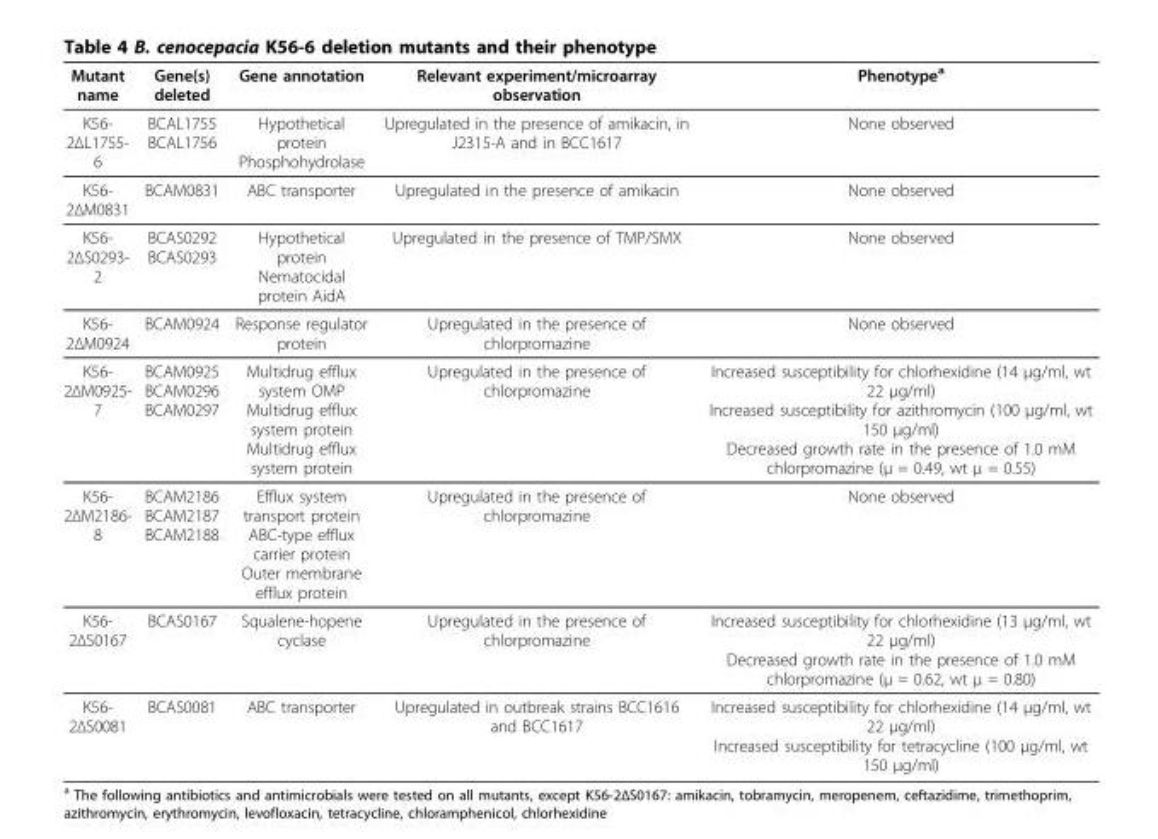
<table><thead><tr><td>Mutant name</td><td>Gene(s) deleted</td><td>Gene annotation</td><td>Relevant experiment/microarray observation</td><td>Phenotype<sup>a</sup></td></tr></thead><tbody><tr><td>K56- 2ΔL1755- 6</td><td>BCAL1755 BCAL1756</td><td>Hypothetical protein Phosphohydrolase</td><td>Upregulated in the presence of amikacin, in J2315-A and in BCC1617</td><td>None observed</td></tr><tr><td>K56- 2ΔM0831</td><td>BCAM0831</td><td>ABC transporter</td><td>Upregulated in the presence of amikacin</td><td>None observed</td></tr><tr><td>K56- 2ΔS0293- 2</td><td>BCAS0292 BCAS0293</td><td>Hypothetical protein Nematocidal protein AidA</td><td>Upregulated in the presence of TMP/SMX</td><td>None observed</td></tr><tr><td>K56- 2ΔM0924</td><td>BCAM0924</td><td>Response regulator protein</td><td>Upregulated in the presence of chlorpromazine</td><td>None observed</td></tr><tr><td>K56- 2ΔM0925- 7</td><td>BCAM0925 BCAM0296 BCAM0297</td><td>Multidrug efflux system OMP Multidrug efflux system protein Multidrug efflux system protein</td><td>Upregulated in the presence of chlorpromazine</td><td>Increased susceptibility for chlorhexidine (14 μg/ml, wt 22 μg/ml) Increased susceptibility for azithromycin (100 μg/ml, wt 150 μg/ml) Decreased growth rate in the presence of 1.0 mM chlorpromazine (μ = 0.49, wt μ = 0.55)</td></tr><tr><td>K56- 2ΔM2186- 8</td><td>BCAM2186 BCAM2187 BCAM2188</td><td>Efflux system transport protein ABC-type efflux carrier protein Outer membrane efflux protein</td><td>Upregulated in the presence of chlorpromazine</td><td>None observed</td></tr><tr><td>K56- 2ΔS0167</td><td>BCAS0167</td><td>Squalene-hopene cyclase</td><td>Upregulated in the presence of chlorpromazine</td><td>Increased susceptibility for chlorhexidine (13 μg/ml, wt 22 μg/ml) Decreased growth rate in the presence of 1.0 mM chlorpromazine (μ = 0.62, wt μ = 0.80)</td></tr><tr><td>K56- 2ΔS0081</td><td>BCAS0081</td><td>ABC transporter</td><td>Upregulated in outbreak strains BCC1616 and BCC1617</td><td>Increased susceptibility for chlorhexidine (14 μg/ml, wt 22 μg/ml) Increased susceptibility for tetracycline (100 μg/ml, wt 150 μg/ml)</td></tr></tbody></table>